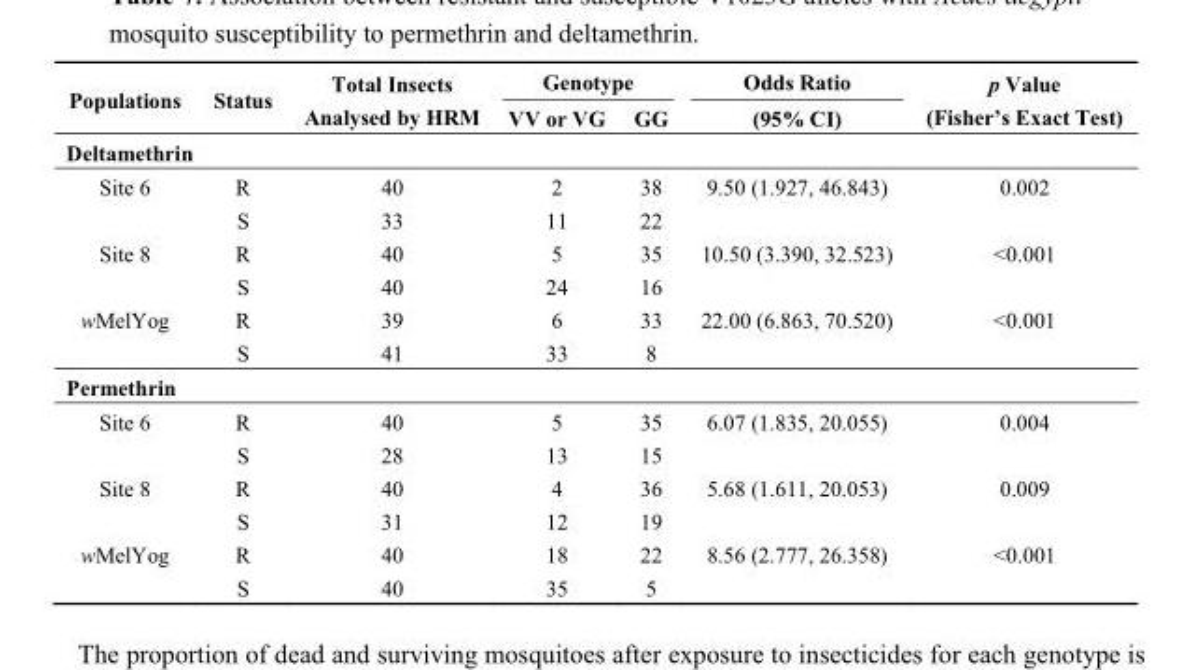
<table><thead><tr><td rowspan="2">Populations</td><td rowspan="2">Status</td><td rowspan="2">Total Insects Analysed by HRM</td><td colspan="2">Genotype</td><td rowspan="2">Odds Ratio (95% CI)</td><td rowspan="2">p Value (Fisher’s Exact Test)</td></tr><tr><td>VV or VG</td><td>GG</td></tr></thead><tbody><tr><td colspan="7">Deltamethrin</td></tr><tr><td rowspan="2">Site 6</td><td>R</td><td>40</td><td>2</td><td>38</td><td>9.50 (1.927, 46.843)</td><td>0.002</td></tr><tr><td>S</td><td>33</td><td>11</td><td>22</td><td></td><td></td></tr><tr><td rowspan="2">Site 8</td><td>R</td><td>40</td><td>5</td><td>35</td><td>10.50 (3.390, 32.523)</td><td>&lt;0.001</td></tr><tr><td>S</td><td>40</td><td>24</td><td>16</td><td></td><td></td></tr><tr><td rowspan="2">wMelYog</td><td>R</td><td>39</td><td>6</td><td>33</td><td>22.00 (6.863, 70.520)</td><td>&lt;0.001</td></tr><tr><td>S</td><td>41</td><td>33</td><td>8</td><td></td><td></td></tr><tr><td colspan="7">Permethrin</td></tr><tr><td rowspan="2">Site 6</td><td>R</td><td>40</td><td>5</td><td>35</td><td>6.07 (1.835, 20.055)</td><td>0.004</td></tr><tr><td>S</td><td>28</td><td>13</td><td>15</td><td></td><td></td></tr><tr><td rowspan="2">Site 8</td><td>R</td><td>40</td><td>4</td><td>36</td><td>5.68 (1.611, 20.053)</td><td>0.009</td></tr><tr><td>S</td><td>31</td><td>12</td><td>19</td><td></td><td></td></tr><tr><td rowspan="2">wMelYog</td><td>R</td><td>40</td><td>18</td><td>22</td><td>8.56 (2.777, 26.358)</td><td>&lt;0.001</td></tr><tr><td>S</td><td>40</td><td>35</td><td>5</td><td></td><td></td></tr></tbody></table>